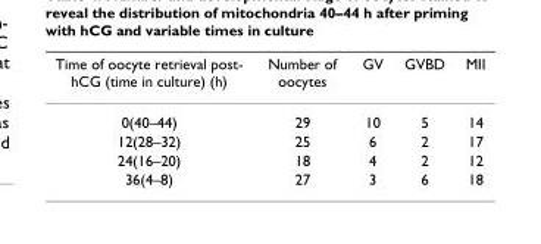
<table><thead><tr><td>Time of oocyte retrieval post- hCG (time in culture) (h)</td><td>Number of oocytes</td><td>GV</td><td>GVBD</td><td>MII</td></tr></thead><tbody><tr><td>0(40–44)</td><td>29</td><td>10</td><td>5</td><td>14</td></tr><tr><td>12(28–32)</td><td>25</td><td>6</td><td>2</td><td>17</td></tr><tr><td>24(16–20)</td><td>18</td><td>4</td><td>2</td><td>12</td></tr><tr><td>36(4–8)</td><td>27</td><td>3</td><td>6</td><td>18</td></tr></tbody></table>